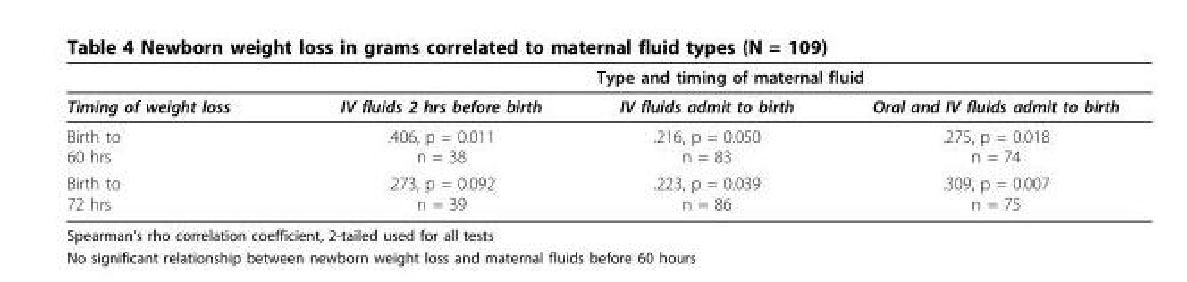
<table><thead><tr><td rowspan="2">Timing of weight loss</td><td colspan="3">Type and timing of maternal fluid</td></tr><tr><td>IV fluids 2 hrs before birth</td><td>IV fluids admit to birth</td><td>Oral and IV fluids admit to birth</td></tr></thead><tbody><tr><td>Birth to 60 hrs</td><td>.406, p = 0.011 n = 38</td><td>.216, p = 0.050 n = 83</td><td>.275, p = 0.018 n = 74</td></tr><tr><td>Birth to 72 hrs</td><td>.273, p = 0.092 n = 39</td><td>.223, p = 0.039 n = 86</td><td>.309, p = 0.007 n = 75</td></tr></tbody></table>